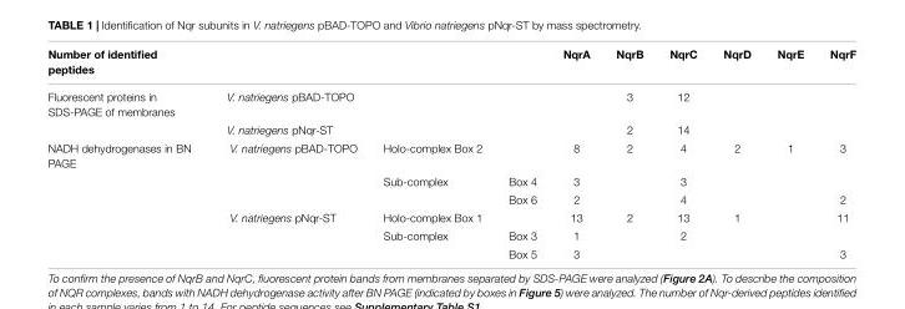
<table><thead><tr><td>Number of identified peptides</td><td></td><td></td><td></td><td>NqrA</td><td>NqrB</td><td>NqrC</td><td>NqrD</td><td>NqrE</td><td>NqrF</td></tr></thead><tbody><tr><td rowspan="2">Fluorescent proteins in SDS-PAGE of membranes</td><td>V. natriegens pBAD-TOPO</td><td></td><td></td><td></td><td>3</td><td>12</td><td></td><td></td><td></td></tr><tr><td>V. natriegens pNqr-ST</td><td></td><td></td><td></td><td>2</td><td>14</td><td></td><td></td><td></td></tr><tr><td rowspan="6">NADH dehydrogenases in BN PAGE</td><td>V. natriegens pBAD-TOPO</td><td>Holo-complex Box 2</td><td></td><td>8</td><td>2</td><td>4</td><td>2</td><td>1</td><td>3</td></tr><tr><td></td><td>Sub-complex</td><td>Box 4</td><td>3</td><td></td><td>3</td><td></td><td></td><td></td></tr><tr><td></td><td></td><td>Box 6</td><td>2</td><td></td><td>4</td><td></td><td></td><td>2</td></tr><tr><td>V. natriegens pNqr-ST</td><td>Holo-complex Box 1</td><td></td><td>13</td><td>2</td><td>13</td><td>1</td><td></td><td>11</td></tr><tr><td></td><td>Sub-complex</td><td>Box 3</td><td>1</td><td></td><td>2</td><td></td><td></td><td></td></tr><tr><td></td><td></td><td>Box 5</td><td>3</td><td></td><td></td><td></td><td></td><td>3</td></tr></tbody></table>